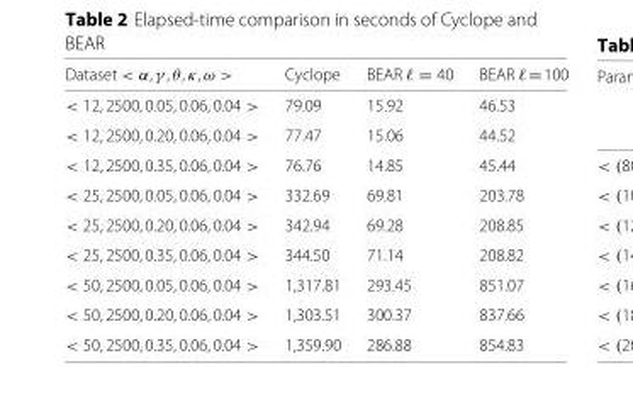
<table><thead><tr><td>Dataset &lt; α, γ , θ, κ, ω &gt;</td><td>Cyclope</td><td>BEAR ℓ = 40</td><td>BEAR ℓ=100</td></tr></thead><tbody><tr><td>&lt; 12, 2500, 0.05, 0.06, 0.04 &gt;</td><td>79.09</td><td>15.92</td><td>46.53</td></tr><tr><td>&lt; 12, 2500, 0.20, 0.06, 0.04 &gt;</td><td>77.47</td><td>15.06</td><td>44.52</td></tr><tr><td>&lt; 12, 2500, 0.35, 0.06, 0.04 &gt;</td><td>76.76</td><td>14.85</td><td>45.44</td></tr><tr><td>&lt; 25, 2500, 0.05, 0.06, 0.04 &gt;</td><td>332.69</td><td>69.81</td><td>203.78</td></tr><tr><td>&lt; 25, 2500, 0.20, 0.06, 0.04 &gt;</td><td>342.94</td><td>69.28</td><td>208.85</td></tr><tr><td>&lt; 25, 2500, 0.35, 0.06, 0.04 &gt;</td><td>344.50</td><td>71.14</td><td>208.82</td></tr><tr><td>&lt; 50, 2500, 0.05, 0.06, 0.04 &gt;</td><td>1,317.81</td><td>293.45</td><td>851.07</td></tr><tr><td>&lt; 50, 2500, 0.20, 0.06, 0.04 &gt;</td><td>1,303.51</td><td>300.37</td><td>837.66</td></tr><tr><td>&lt; 50, 2500, 0.35, 0.06, 0.04 &gt;</td><td>1,359.90</td><td>286.88</td><td>854.83</td></tr></tbody></table>